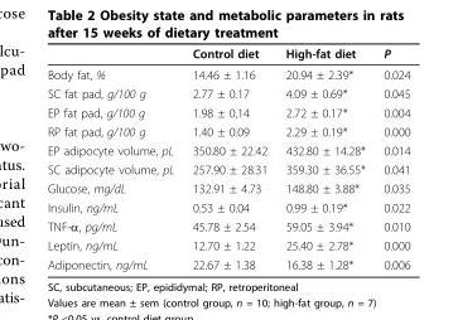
<table><thead><tr><td></td><td>Control diet</td><td>High-fat diet</td><td>P</td></tr></thead><tbody><tr><td>Body fat, %</td><td>14.46 ± 1.16</td><td>20.94 ± 2.39*</td><td>0.024</td></tr><tr><td>SC fat pad, g/100 g</td><td>2.77 ± 0.17</td><td>4.09 ± 0.69*</td><td>0.045</td></tr><tr><td>EP fat pad, g/100 g</td><td>1.98 ± 0,14</td><td>2.72 ± 0.17*</td><td>0.004</td></tr><tr><td>RP fat pad, g/100 g</td><td>1.40 ± 0.09</td><td>2.29 ± 0.19*</td><td>0.000</td></tr><tr><td>EP adipocyte volume, pL</td><td>350.80 ± 22.42</td><td>432.80 ± 14.28*</td><td>0.014</td></tr><tr><td>SC adipocyte volume, pL</td><td>257.90 ± 28.31</td><td>359.30 ± 36.55*</td><td>0.041</td></tr><tr><td>Glucose, mg/dL</td><td>132.91 ± 4.73</td><td>148.80 ± 3.88*</td><td>0.035</td></tr><tr><td>Insulin, ng/mL</td><td>0.53 ± 0.04</td><td>0.99 ± 0.19*</td><td>0.022</td></tr><tr><td>TNF-α, pg/mL</td><td>45.78 ± 2.54</td><td>59.05 ± 3.94*</td><td>0.010</td></tr><tr><td>Leptin, ng/mL</td><td>12.70 ± 1.22</td><td>25.40 ± 2.78*</td><td>0.000</td></tr><tr><td>Adiponectin, ng/mL</td><td>22.67 ± 1.38</td><td>16.38 ± 1.28*</td><td>0.006</td></tr></tbody></table>